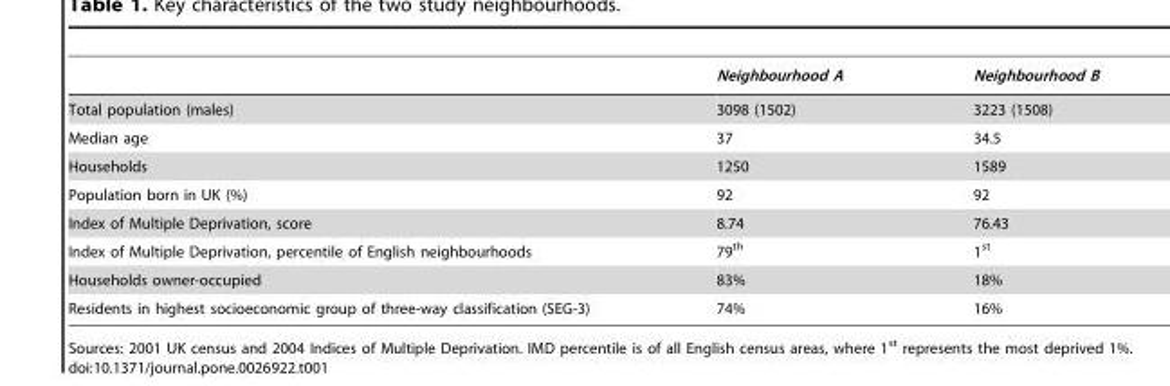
<table><thead><tr><td></td><td>Neighbourhood A</td><td>Neighbourhood B</td></tr></thead><tbody><tr><td>Total population (males)</td><td>3098 (1502)</td><td>3223 (1508)</td></tr><tr><td>Median age</td><td>37</td><td>34.5</td></tr><tr><td>Households</td><td>1250</td><td>1589</td></tr><tr><td>Population born in UK (%)</td><td>92</td><td>92</td></tr><tr><td>Index of Multiple Deprivation, score</td><td>8.74</td><td>76.43</td></tr><tr><td>Index of Multiple Deprivation, percentile of English neighbourhoods</td><td>79<sup>th</sup></td><td>1<sup>st</sup></td></tr><tr><td>Households owner-occupied</td><td>83%</td><td>18%</td></tr><tr><td>Residents in highest socioeconomic group of three-way classification (SEG-3)</td><td>74%</td><td>16%</td></tr></tbody></table>